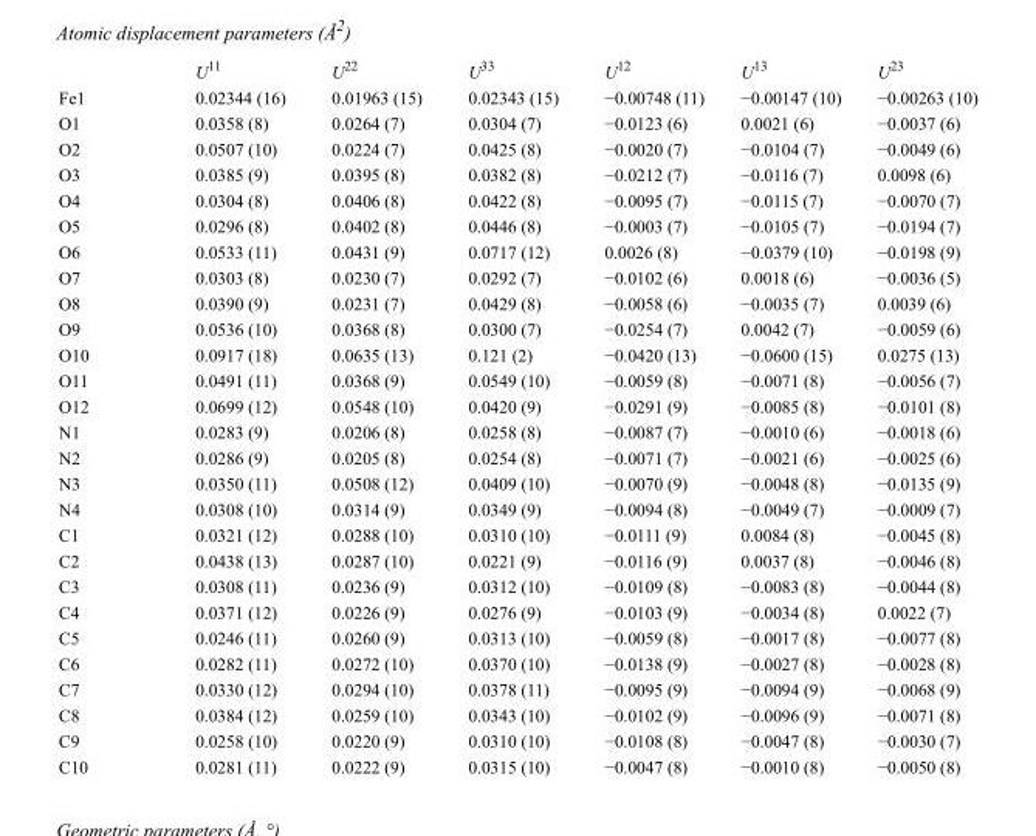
<table><thead><tr><td></td><td>U<sup>11</sup></td><td>U<sup>22</sup></td><td>U<sup>33</sup></td><td>U<sup>12</sup></td><td>U<sup>13</sup></td><td>U<sup>23</sup></td></tr></thead><tbody><tr><td>Fe1</td><td>0.02344 (16)</td><td>0.01963 (15)</td><td>0.02343 (15)</td><td>−0.00748 (11)</td><td>−0.00147 (10)</td><td>−0.00263 (10)</td></tr><tr><td>O1</td><td>0.0358 (8)</td><td>0.0264 (7)</td><td>0.0304 (7)</td><td>−0.0123 (6)</td><td>0.0021 (6)</td><td>−0.0037 (6)</td></tr><tr><td>O2</td><td>0.0507 (10)</td><td>0.0224 (7)</td><td>0.0425 (8)</td><td>−0.0020 (7)</td><td>−0.0104 (7)</td><td>−0.0049 (6)</td></tr><tr><td>O3</td><td>0.0385 (9)</td><td>0.0395 (8)</td><td>0.0382 (8)</td><td>−0.0212 (7)</td><td>−0.0116 (7)</td><td>0.0098 (6)</td></tr><tr><td>O4</td><td>0.0304 (8)</td><td>0.0406 (8)</td><td>0.0422 (8)</td><td>−0.0095 (7)</td><td>−0.0115 (7)</td><td>−0.0070 (7)</td></tr><tr><td>O5</td><td>0.0296 (8)</td><td>0.0402 (8)</td><td>0.0446 (8)</td><td>−0.0003 (7)</td><td>−0.0105 (7)</td><td>−0.0194 (7)</td></tr><tr><td>O6</td><td>0.0533 (11)</td><td>0.0431 (9)</td><td>0.0717 (12)</td><td>0.0026 (8)</td><td>−0.0379 (10)</td><td>−0.0198 (9)</td></tr><tr><td>O7</td><td>0.0303 (8)</td><td>0.0230 (7)</td><td>0.0292 (7)</td><td>−0.0102 (6)</td><td>0.0018 (6)</td><td>−0.0036 (5)</td></tr><tr><td>O8</td><td>0.0390 (9)</td><td>0.0231 (7)</td><td>0.0429 (8)</td><td>−0.0058 (6)</td><td>−0.0035 (7)</td><td>0.0039 (6)</td></tr><tr><td>O9</td><td>0.0536 (10)</td><td>0.0368 (8)</td><td>0.0300 (7)</td><td>−0.0254 (7)</td><td>0.0042 (7)</td><td>−0.0059 (6)</td></tr><tr><td>O10</td><td>0.0917 (18)</td><td>0.0635 (13)</td><td>0.121 (2)</td><td>−0.0420 (13)</td><td>−0.0600 (15)</td><td>0.0275 (13)</td></tr><tr><td>O11</td><td>0.0491 (11)</td><td>0.0368 (9)</td><td>0.0549 (10)</td><td>−0.0059 (8)</td><td>−0.0071 (8)</td><td>−0.0056 (7)</td></tr><tr><td>O12</td><td>0.0699 (12)</td><td>0.0548 (10)</td><td>0.0420 (9)</td><td>−0.0291 (9)</td><td>−0.0085 (8)</td><td>−0.0101 (8)</td></tr><tr><td>N1</td><td>0.0283 (9)</td><td>0.0206 (8)</td><td>0.0258 (8)</td><td>−0.0087 (7)</td><td>−0.0010 (6)</td><td>−0.0018 (6)</td></tr><tr><td>N2</td><td>0.0286 (9)</td><td>0.0205 (8)</td><td>0.0254 (8)</td><td>−0.0071 (7)</td><td>−0.0021 (6)</td><td>−0.0025 (6)</td></tr><tr><td>N3</td><td>0.0350 (11)</td><td>0.0508 (12)</td><td>0.0409 (10)</td><td>−0.0070 (9)</td><td>−0.0048 (8)</td><td>−0.0135 (9)</td></tr><tr><td>N4</td><td>0.0308 (10)</td><td>0.0314 (9)</td><td>0.0349 (9)</td><td>−0.0094 (8)</td><td>−0.0049 (7)</td><td>−0.0009 (7)</td></tr><tr><td>C1</td><td>0.0321 (12)</td><td>0.0288 (10)</td><td>0.0310 (10)</td><td>−0.0111 (9)</td><td>0.0084 (8)</td><td>−0.0045 (8)</td></tr><tr><td>C2</td><td>0.0438 (13)</td><td>0.0287 (10)</td><td>0.0221 (9)</td><td>−0.0116 (9)</td><td>0.0037 (8)</td><td>−0.0046 (8)</td></tr><tr><td>C3</td><td>0.0308 (11)</td><td>0.0236 (9)</td><td>0.0312 (10)</td><td>−0.0109 (8)</td><td>−0.0083 (8)</td><td>−0.0044 (8)</td></tr><tr><td>C4</td><td>0.0371 (12)</td><td>0.0226 (9)</td><td>0.0276 (9)</td><td>−0.0103 (9)</td><td>−0.0034 (8)</td><td>0.0022 (7)</td></tr><tr><td>C5</td><td>0.0246 (11)</td><td>0.0260 (9)</td><td>0.0313 (10)</td><td>−0.0059 (8)</td><td>−0.0017 (8)</td><td>−0.0077 (8)</td></tr><tr><td>C6</td><td>0.0282 (11)</td><td>0.0272 (10)</td><td>0.0370 (10)</td><td>−0.0138 (9)</td><td>−0.0027 (8)</td><td>−0.0028 (8)</td></tr><tr><td>C7</td><td>0.0330 (12)</td><td>0.0294 (10)</td><td>0.0378 (11)</td><td>−0.0095 (9)</td><td>−0.0094 (9)</td><td>−0.0068 (9)</td></tr><tr><td>C8</td><td>0.0384 (12)</td><td>0.0259 (10)</td><td>0.0343 (10)</td><td>−0.0102 (9)</td><td>−0.0096 (9)</td><td>−0.0071 (8)</td></tr><tr><td>C9</td><td>0.0258 (10)</td><td>0.0220 (9)</td><td>0.0310 (10)</td><td>−0.0108 (8)</td><td>−0.0047 (8)</td><td>−0.0030 (7)</td></tr><tr><td>C10</td><td>0.0281 (11)</td><td>0.0222 (9)</td><td>0.0315 (10)</td><td>−0.0047 (8)</td><td>−0.0010 (8)</td><td>−0.0050 (8)</td></tr></tbody></table>